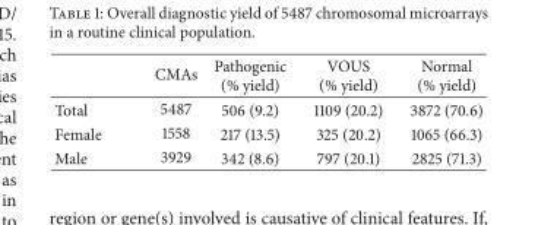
<table><thead><tr><td></td><td>CMAs</td><td>Pathogenic (% yield)</td><td>VOUS (% yield)</td><td>Normal (% yield)</td></tr></thead><tbody><tr><td>Total</td><td>5487</td><td>506 (9.2)</td><td>1109 (20.2)</td><td>3872 (70.6)</td></tr><tr><td>Female</td><td>1558</td><td>217 (13.5)</td><td>325 (20.2)</td><td>1065 (66.3)</td></tr><tr><td>Male</td><td>3929</td><td>342 (8.6)</td><td>797 (20.1)</td><td>2825 (71.3)</td></tr></tbody></table>